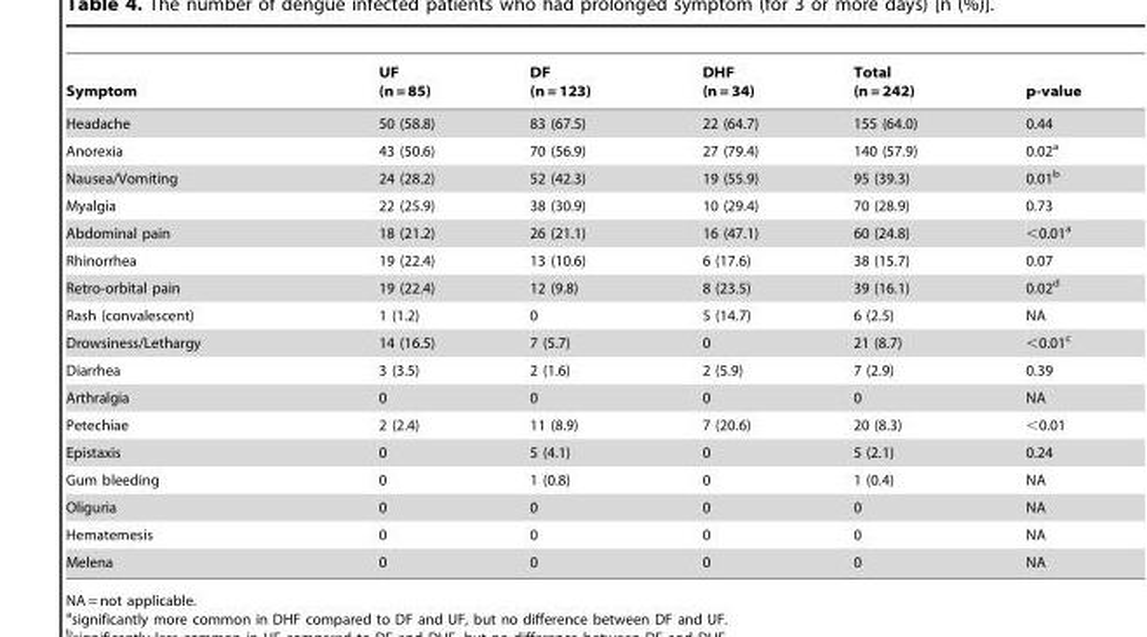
<table><thead><tr><td>Symptom</td><td>UF (n = 85)</td><td>DF (n = 123)</td><td>DHF (n = 34)</td><td>Total (n = 242)</td><td>p-value</td></tr></thead><tbody><tr><td>Headache</td><td>50 (58.8)</td><td>83 (67.5)</td><td>22 (64.7)</td><td>155 (64.0)</td><td>0.44</td></tr><tr><td>Anorexia</td><td>43 (50.6)</td><td>70 (56.9)</td><td>27 (79.4)</td><td>140 (57.9)</td><td>0.02<sup>a</sup></td></tr><tr><td>Nausea/Vomiting</td><td>24 (28.2)</td><td>52 (42.3)</td><td>19 (55.9)</td><td>95 (39.3)</td><td>0.01<sup>b</sup></td></tr><tr><td>Myalgia</td><td>22 (25.9)</td><td>38 (30.9)</td><td>10 (29.4)</td><td>70 (28.9)</td><td>0.73</td></tr><tr><td>Abdominal pain</td><td>18 (21.2)</td><td>26 (21.1)</td><td>16 (47.1)</td><td>60 (24.8)</td><td>&lt;0.01<sup>a</sup></td></tr><tr><td>Rhinorrhea</td><td>19 (22.4)</td><td>13 (10.6)</td><td>6 (17.6)</td><td>38 (15.7)</td><td>0.07</td></tr><tr><td>Retro-orbital pain</td><td>19 (22.4)</td><td>12 (9.8)</td><td>8 (23.5)</td><td>39 (16.1)</td><td>0.02<sup>d</sup></td></tr><tr><td>Rash (convalescent)</td><td>1 (1.2)</td><td>0</td><td>5 (14.7)</td><td>6 (2.5)</td><td>NA</td></tr><tr><td>Drowsiness/Lethargy</td><td>14 (16.5)</td><td>7 (5.7)</td><td>0</td><td>21 (8.7)</td><td>&lt;0.01<sup>c</sup></td></tr><tr><td>Diarrhea</td><td>3 (3.5)</td><td>2 (1.6)</td><td>2 (5.9)</td><td>7 (2.9)</td><td>0.39</td></tr><tr><td>Arthralgia</td><td>0</td><td>0</td><td>0</td><td>0</td><td>NA</td></tr><tr><td>Petechiae</td><td>2 (2.4)</td><td>11 (8.9)</td><td>7 (20.6)</td><td>20 (8.3)</td><td>&lt;0.01</td></tr><tr><td>Epistaxis</td><td>0</td><td>5 (4.1)</td><td>0</td><td>5 (2.1)</td><td>0.24</td></tr><tr><td>Gum bleeding</td><td>0</td><td>1 (0.8)</td><td>0</td><td>1 (0.4)</td><td>NA</td></tr><tr><td>Oliguria</td><td>0</td><td>0</td><td>0</td><td>0</td><td>NA</td></tr><tr><td>Hematemesis</td><td>0</td><td>0</td><td>0</td><td>0</td><td>NA</td></tr><tr><td>Melena</td><td>0</td><td>0</td><td>0</td><td>0</td><td>NA</td></tr></tbody></table>